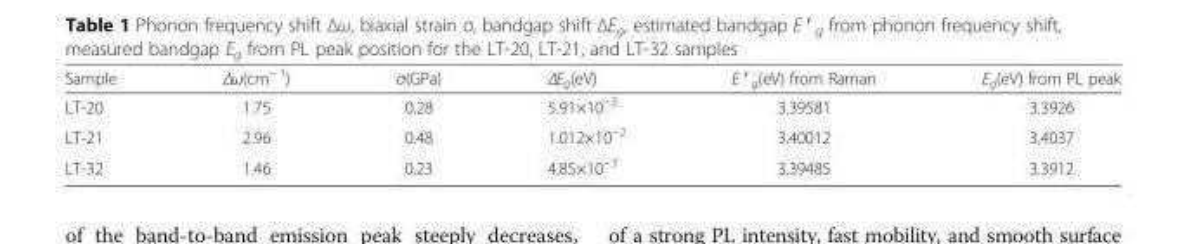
<table><thead><tr><td>Sample</td><td>Δω(cm− 1)</td><td>σ(GPa)</td><td>ΔEg(eV)</td><td>E ′ <sub>g</sub>(eV) from Raman</td><td>E<sub>g</sub>(eV) from PL peak</td></tr></thead><tbody><tr><td>LT-20</td><td>1.75</td><td>0.28</td><td>5.91×10<sup>−3</sup></td><td>3.39581</td><td>3.3926</td></tr><tr><td>LT-21</td><td>2.96</td><td>0.48</td><td>1.012×10<sup>−2</sup></td><td>3.40012</td><td>3.4037</td></tr><tr><td>LT-32</td><td>1.46</td><td>0.23</td><td>4.85×10<sup>−3</sup></td><td>3.39485</td><td>3.3912</td></tr></tbody></table>